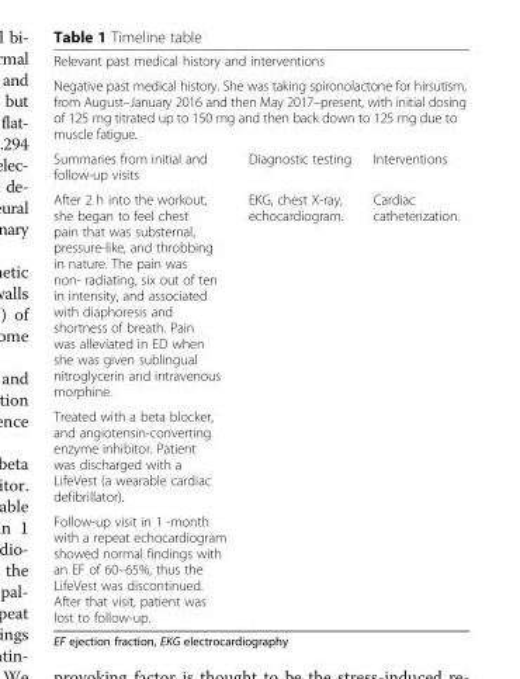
<table><tbody><tr><td colspan="3">Relevant past medical history and interventions</td></tr><tr><td colspan="3">Negative past medical history. She was taking spironolactone for hirsutism, from August–January 2016 and then May 2017–present, with initial dosing of 125 mg titrated up to 150 mg and then back down to 125 mg due to muscle fatigue.</td></tr><tr><td>Summaries from initial and follow-up visits</td><td>Diagnostic testing</td><td>Interventions</td></tr><tr><td>After 2 h into the workout, she began to feel chest pain that was substernal, pressure-like, and throbbing in nature. The pain was non- radiating, six out of ten in intensity, and associated with diaphoresis and shortness of breath. Pain was alleviated in ED when she was given sublingual nitroglycerin and intravenous morphine.</td><td>EKG, chest X-ray, echocardiogram.</td><td>Cardiac catheterization.</td></tr><tr><td colspan="3">Treated with a beta blocker, and angiotensin-converting enzyme inhibitor. Patient was discharged with a LifeVest (a wearable cardiac defibrillator).</td></tr><tr><td>Follow-up visit in 1 -month with a repeat echocardiogram showed normal findings with an EF of 60–65%, thus the LifeVest was discontinued. After that visit, patient was lost to follow-up.</td><td></td><td></td></tr></tbody></table>